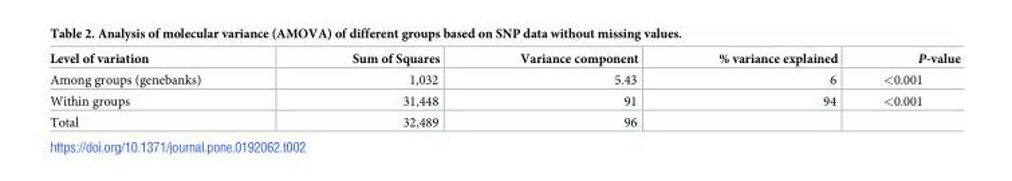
<table><thead><tr><td>Level of variation</td><td>Sum of Squares</td><td>Variance component</td><td>% variance explained</td><td>P-value</td></tr></thead><tbody><tr><td>Among groups (genebanks)</td><td>1,032</td><td>5.43</td><td>6</td><td>&lt;0.001</td></tr><tr><td>Within groups</td><td>31,448</td><td>91</td><td>94</td><td>&lt;0.001</td></tr><tr><td>Total</td><td>32,489</td><td>96</td><td></td><td></td></tr></tbody></table>